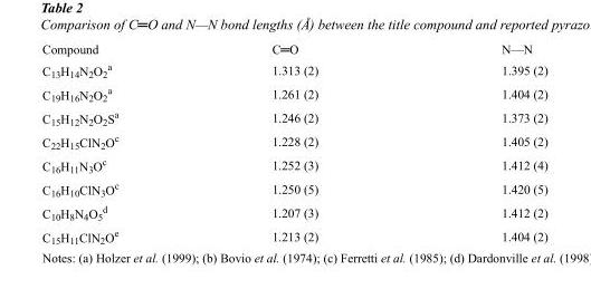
<table><thead><tr><td>Compound</td><td>C═O</td><td>N—N</td></tr></thead><tbody><tr><td>C<sub>13</sub>H<sub>14</sub>N<sub>2</sub>O<sub>2</sub> <sup>a</sup></td><td>1.313 (2)</td><td>1.395 (2)</td></tr><tr><td>C<sub>19</sub>H<sub>16</sub>N<sub>2</sub>O<sub>2</sub> <sup>a</sup></td><td>1.261 (2)</td><td>1.404 (2)</td></tr><tr><td>C<sub>15</sub>H<sub>12</sub>N<sub>2</sub>O<sub>2</sub>S<sup>a</sup></td><td>1.246 (2)</td><td>1.373 (2)</td></tr><tr><td>C<sub>22</sub>H<sub>15</sub>ClN<sub>2</sub>O<sup>c</sup></td><td>1.228 (2)</td><td>1.405 (2)</td></tr><tr><td>C<sub>16</sub>H<sub>11</sub>N<sub>3</sub>O<sup>c</sup></td><td>1.252 (3)</td><td>1.412 (4)</td></tr><tr><td>C<sub>16</sub>H<sub>10</sub>ClN<sub>3</sub>O<sup>c</sup></td><td>1.250 (5)</td><td>1.420 (5)</td></tr><tr><td>C<sub>10</sub>H<sub>8</sub>N<sub>4</sub>O<sub>5</sub> <sup>d</sup></td><td>1.207 (3)</td><td>1.412 (2)</td></tr><tr><td>C<sub>15</sub>H<sub>11</sub>ClN<sub>2</sub>O<sup>e</sup></td><td>1.213 (2)</td><td>1.404 (2)</td></tr></tbody></table>